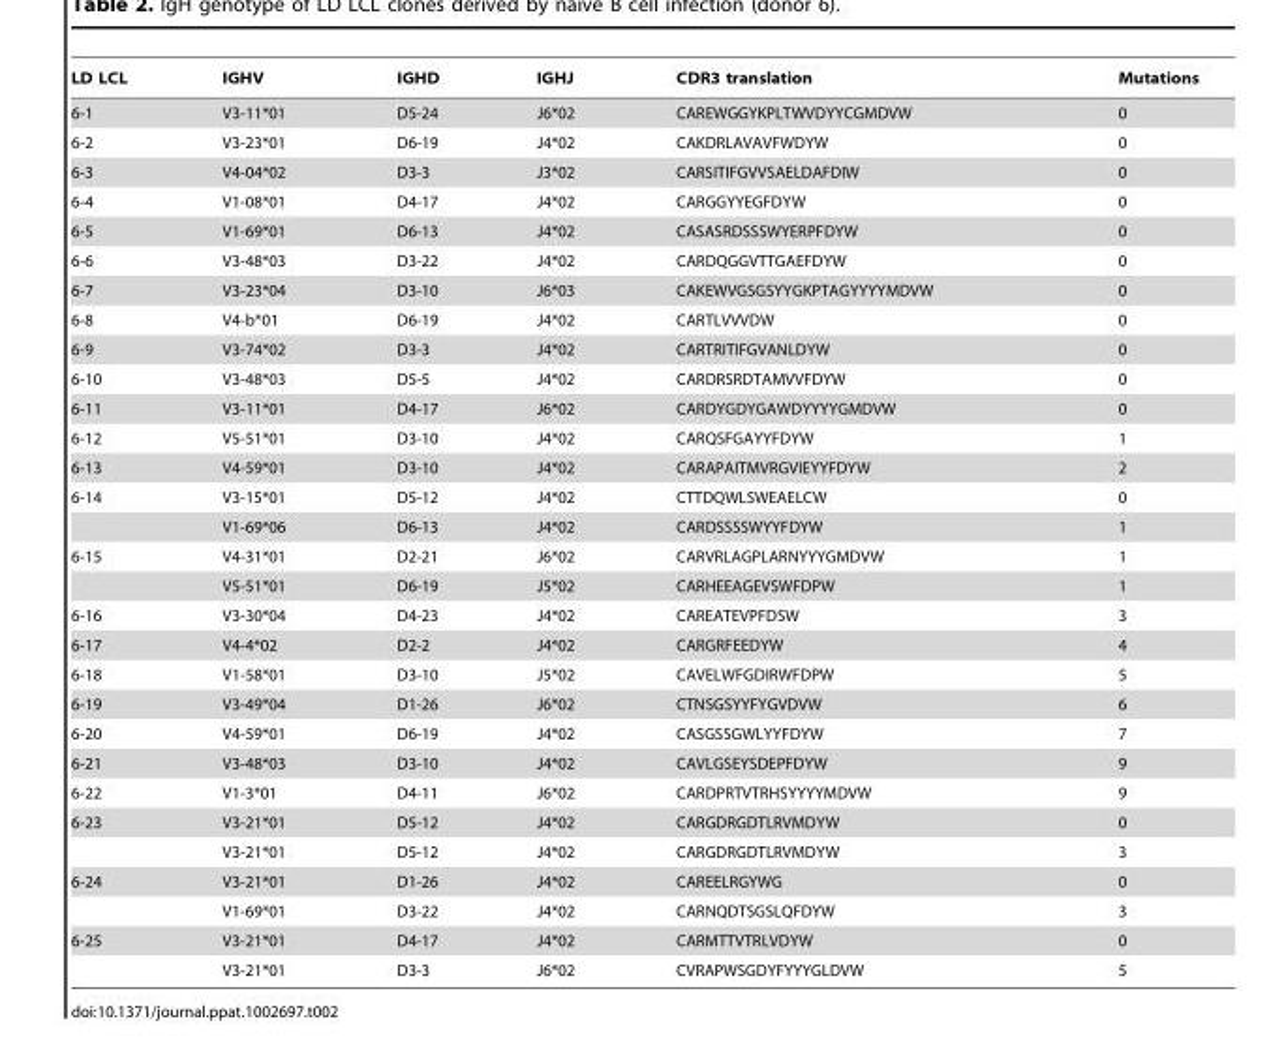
<table><thead><tr><td>LD LCL</td><td>IGHV</td><td>IGHD</td><td>IGHJ</td><td>CDR3 translation</td><td>Mutations</td></tr></thead><tbody><tr><td>6-1</td><td>V3-11*01</td><td>D5-24</td><td>J6*02</td><td>CAREWGGYKPLTWVDYYCGMDVW</td><td>0</td></tr><tr><td>6-2</td><td>V3-23*01</td><td>D6-19</td><td>J4*02</td><td>CAKDRLAVAVFWDYW</td><td>0</td></tr><tr><td>6-3</td><td>V4-04*02</td><td>D3-3</td><td>J3*02</td><td>CARSITIFGVVSAELDAFDIW</td><td>0</td></tr><tr><td>6-4</td><td>V1-08*01</td><td>D4-17</td><td>J4*02</td><td>CARGGYYEGFDYW</td><td>0</td></tr><tr><td>6-5</td><td>V1-69*01</td><td>D6-13</td><td>J4*02</td><td>CASASRDSSSWYERPFDYW</td><td>0</td></tr><tr><td>6-6</td><td>V3-48*03</td><td>D3-22</td><td>J4*02</td><td>CARDQGGVTTGAEFDYW</td><td>0</td></tr><tr><td>6-7</td><td>V3-23*04</td><td>D3-10</td><td>J6*03</td><td>CAKEWVGSGSYYGKPTAGYYYYMDVW</td><td>0</td></tr><tr><td>6-8</td><td>V4-b*01</td><td>D6-19</td><td>J4*02</td><td>CARTLVVVDW</td><td>0</td></tr><tr><td>6-9</td><td>V3-74*02</td><td>D3-3</td><td>J4*02</td><td>CARTRITIFGVANLDYW</td><td>0</td></tr><tr><td>6-10</td><td>V3-48*03</td><td>D5-5</td><td>J4*02</td><td>CARDRSRDTAMVVFDYW</td><td>0</td></tr><tr><td>6-11</td><td>V3-11*01</td><td>D4-17</td><td>J6*02</td><td>CARDYGDYGAWDYYYYGMDVW</td><td>0</td></tr><tr><td>6-12</td><td>V5-51*01</td><td>D3-10</td><td>J4*02</td><td>CARQSFGAYYFDYW</td><td>1</td></tr><tr><td>6-13</td><td>V4-59*01</td><td>D3-10</td><td>J4*02</td><td>CARAPAITMVRGVIEYYFDYW</td><td>2</td></tr><tr><td rowspan="2">6-14</td><td>V3-15*01</td><td>D5-12</td><td>J4*02</td><td>CTTDQWLSWEAELCW</td><td>0</td></tr><tr><td>V1-69*06</td><td>D6-13</td><td>J4*02</td><td>CARDSSSSWYYFDYW</td><td>1</td></tr><tr><td rowspan="2">6-15</td><td>V4-31*01</td><td>D2-21</td><td>J6*02</td><td>CARVRLAGPLARNYYYGMDVW</td><td>1</td></tr><tr><td>V5-51*01</td><td>D6-19</td><td>J5*02</td><td>CARHEEAGEVSWFDPW</td><td>1</td></tr><tr><td>6-16</td><td>V3-30*04</td><td>D4-23</td><td>J4*02</td><td>CAREATEVPFDSW</td><td>3</td></tr><tr><td>6-17</td><td>V4-4*02</td><td>D2-2</td><td>J4*02</td><td>CARGRFEEDYW</td><td>4</td></tr><tr><td>6-18</td><td>V1-58*01</td><td>D3-10</td><td>J5*02</td><td>CAVELWFGDIRWFDPW</td><td>5</td></tr><tr><td>6-19</td><td>V3-49*04</td><td>D1-26</td><td>J6*02</td><td>CTNSGSYYFYGVDVW</td><td>6</td></tr><tr><td>6-20</td><td>V4-59*01</td><td>D6-19</td><td>J4*02</td><td>CASGSSGWLYYFDYW</td><td>7</td></tr><tr><td>6-21</td><td>V3-48*03</td><td>D3-10</td><td>J4*02</td><td>CAVLGSEYSDEPFDYW</td><td>9</td></tr><tr><td>6-22</td><td>V1-3*01</td><td>D4-11</td><td>J6*02</td><td>CARDPRTVTRHSYYYYMDVW</td><td>9</td></tr><tr><td rowspan="2">6-23</td><td>V3-21*01</td><td>D5-12</td><td>J4*02</td><td>CARGDRGDTLRVMDYW</td><td>0</td></tr><tr><td>V3-21*01</td><td>D5-12</td><td>J4*02</td><td>CARGDRGDTLRVMDYW</td><td>3</td></tr><tr><td rowspan="2">6-24</td><td>V3-21*01</td><td>D1-26</td><td>J4*02</td><td>CAREELRGYWG</td><td>0</td></tr><tr><td>V1-69*01</td><td>D3-22</td><td>J4*02</td><td>CARNQDTSGSLQFDYW</td><td>3</td></tr><tr><td rowspan="2">6-25</td><td>V3-21*01</td><td>D4-17</td><td>J4*02</td><td>CARMTTVTRLVDYW</td><td>0</td></tr><tr><td>V3-21*01</td><td>D3-3</td><td>J6*02</td><td>CVRAPWSGDYFYYYGLDVW</td><td>5</td></tr></tbody></table>